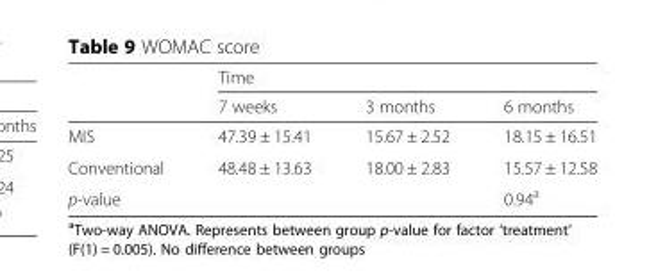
<table><thead><tr><td rowspan="2"></td><td colspan="3">Time</td></tr><tr><td>7 weeks</td><td>3 months</td><td>6 months</td></tr></thead><tbody><tr><td>MIS</td><td>47.39 ± 15.41</td><td>15.67 ± 2.52</td><td>18.15 ± 16.51</td></tr><tr><td>Conventional</td><td>48.48 ± 13.63</td><td>18.00 ± 2.83</td><td>15.57 ± 12.58</td></tr><tr><td>p-value</td><td></td><td></td><td>0.94<sup>a</sup></td></tr></tbody></table>